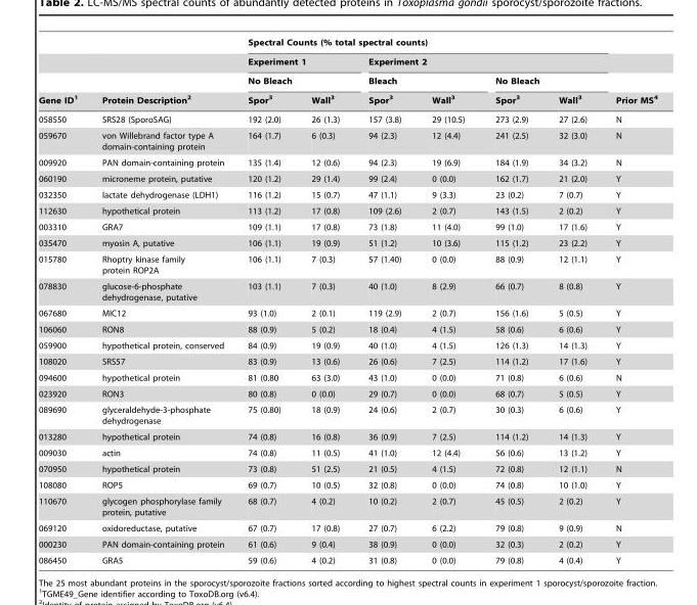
<table><thead><tr><td rowspan="4">Gene ID<sup>1</sup></td><td rowspan="4">Protein Description<sup>2</sup></td><td colspan="6">Spectral Counts (% total spectral counts)</td><td rowspan="4">Prior MS<sup>4</sup></td></tr><tr><td rowspan="2" colspan="2">Experiment 1 No Bleach</td><td colspan="4">Experiment 2</td></tr><tr><td colspan="2">Bleach</td><td colspan="2">No Bleach</td></tr><tr><td>Spor<sup>3</sup></td><td>Wall<sup>3</sup></td><td>Spor<sup>3</sup></td><td>Wall<sup>3</sup></td><td>Spor<sup>3</sup></td><td>Wall<sup>3</sup></td></tr></thead><tbody><tr><td>058550</td><td>SRS28 (SporoSAG)</td><td>192 (2.0)</td><td>26 (1.3)</td><td>157 (3.8)</td><td>29 (10.5)</td><td>273 (2.9)</td><td>27 (2.6)</td><td>N</td></tr><tr><td>059670</td><td>von Willebrand factor type A domain-containing protein</td><td>164 (1.7)</td><td>6 (0.3)</td><td>94 (2.3)</td><td>12 (4.4)</td><td>241 (2.5)</td><td>32 (3.0)</td><td>N</td></tr><tr><td>009920</td><td>PAN domain-containing protein</td><td>135 (1.4)</td><td>12 (0.6)</td><td>94 (2.3)</td><td>19 (6.9)</td><td>184 (1.9)</td><td>34 (3.2)</td><td>N</td></tr><tr><td>060190</td><td>microneme protein, putative</td><td>120 (1.2)</td><td>29 (1.4)</td><td>99 (2.4)</td><td>0 (0.0)</td><td>162 (1.7)</td><td>21 (2.0)</td><td>Y</td></tr><tr><td>032350</td><td>lactate dehydrogenase (LDH1)</td><td>116 (1.2)</td><td>15 (0.7)</td><td>47 (1.1)</td><td>9 (3.3)</td><td>23 (0.2)</td><td>7 (0.7)</td><td>Y</td></tr><tr><td>112630</td><td>hypothetical protein</td><td>113 (1.2)</td><td>17 (0.8)</td><td>109 (2.6)</td><td>2 (0.7)</td><td>143 (1.5)</td><td>2 (0.2)</td><td>Y</td></tr><tr><td>003310</td><td>GRA7</td><td>109 (1.1)</td><td>17 (0.8)</td><td>73 (1.8)</td><td>11 (4.0)</td><td>99 (1.0)</td><td>17 (1.6)</td><td>Y</td></tr><tr><td>035470</td><td>myosin A, putative</td><td>106 (1.1)</td><td>19 (0.9)</td><td>51 (1.2)</td><td>10 (3.6)</td><td>115 (1.2)</td><td>23 (2.2)</td><td>Y</td></tr><tr><td>015780</td><td>Rhoptry kinase family protein ROP2A</td><td>106 (1.1)</td><td>7 (0.3)</td><td>57 (1.40)</td><td>0 (0.0)</td><td>88 (0.9)</td><td>12 (1.1)</td><td>Y</td></tr><tr><td>078830</td><td>glucose-6-phosphate dehydrogenase, putative</td><td>103 (1.1)</td><td>7 (0.3)</td><td>40 (1.0)</td><td>8 (2.9)</td><td>66 (0.7)</td><td>8 (0.8)</td><td>Y</td></tr><tr><td>067680</td><td>MIC12</td><td>93 (1.0)</td><td>2 (0.1)</td><td>119 (2.9)</td><td>2 (0.7)</td><td>156 (1.6)</td><td>5 (0.5)</td><td>Y</td></tr><tr><td>106060</td><td>RON8</td><td>88 (0.9)</td><td>5 (0.2)</td><td>18 (0.4)</td><td>4 (1.5)</td><td>58 (0.6)</td><td>6 (0.6)</td><td>Y</td></tr><tr><td>059900</td><td>hypothetical protein, conserved</td><td>84 (0.9)</td><td>19 (0.9)</td><td>40 (1.0)</td><td>4 (1.5)</td><td>126 (1.3)</td><td>14 (1.3)</td><td>Y</td></tr><tr><td>108020</td><td>SRS57</td><td>83 (0.9)</td><td>13 (0.6)</td><td>26 (0.6)</td><td>7 (2.5)</td><td>114 (1.2)</td><td>17 (1.6)</td><td>Y</td></tr><tr><td>094600</td><td>hypothetical protein</td><td>81 (0.80</td><td>63 (3.0)</td><td>43 (1.0)</td><td>0 (0.0)</td><td>71 (0.8)</td><td>6 (0.6)</td><td>N</td></tr><tr><td>023920</td><td>RON3</td><td>80 (0.8)</td><td>0 (0.0)</td><td>29 (0.7)</td><td>0 (0.0)</td><td>68 (0.7)</td><td>5 (0.5)</td><td>Y</td></tr><tr><td>089690</td><td>glyceraldehyde-3-phosphate dehydrogenase</td><td>75 (0.80)</td><td>18 (0.9)</td><td>24 (0.6)</td><td>2 (0.7)</td><td>30 (0.3)</td><td>6 (0.6)</td><td>Y</td></tr><tr><td>013280</td><td>hypothetical protein</td><td>74 (0.8)</td><td>16 (0.8)</td><td>36 (0.9)</td><td>7 (2.5)</td><td>114 (1.2)</td><td>14 (1.3)</td><td>Y</td></tr><tr><td>009030</td><td>actin</td><td>74 (0.8)</td><td>11 (0.5)</td><td>41 (1.0)</td><td>12 (4.4)</td><td>56 (0.6)</td><td>13 (1.2)</td><td>Y</td></tr><tr><td>070950</td><td>hypothetical protein</td><td>73 (0.8)</td><td>51 (2.5)</td><td>21 (0.5)</td><td>4 (1.5)</td><td>72 (0.8)</td><td>12 (1.1)</td><td>N</td></tr><tr><td>108080</td><td>ROP5</td><td>69 (0.7)</td><td>10 (0.5)</td><td>32 (0.8)</td><td>0 (0.0)</td><td>74 (0.8)</td><td>10 (1.0)</td><td>Y</td></tr><tr><td>110670</td><td>glycogen phosphorylase family protein, putative</td><td>68 (0.7)</td><td>4 (0.2)</td><td>10 (0.2)</td><td>2 (0.7)</td><td>45 (0.5)</td><td>2 (0.2)</td><td>Y</td></tr><tr><td>069120</td><td>oxidoreductase, putative</td><td>67 (0.7)</td><td>17 (0.8)</td><td>27 (0.7)</td><td>6 (2.2)</td><td>79 (0.8)</td><td>9 (0.9)</td><td>N</td></tr><tr><td>000230</td><td>PAN domain-containing protein</td><td>61 (0.6)</td><td>9 (0.4)</td><td>38 (0.9)</td><td>0 (0.0)</td><td>32 (0.3)</td><td>2 (0.2)</td><td>Y</td></tr><tr><td>086450</td><td>GRA5</td><td>59 (0.6)</td><td>4 (0.2)</td><td>31 (0.8)</td><td>0 (0.0)</td><td>79 (0.8)</td><td>4 (0.4)</td><td>Y</td></tr></tbody></table>